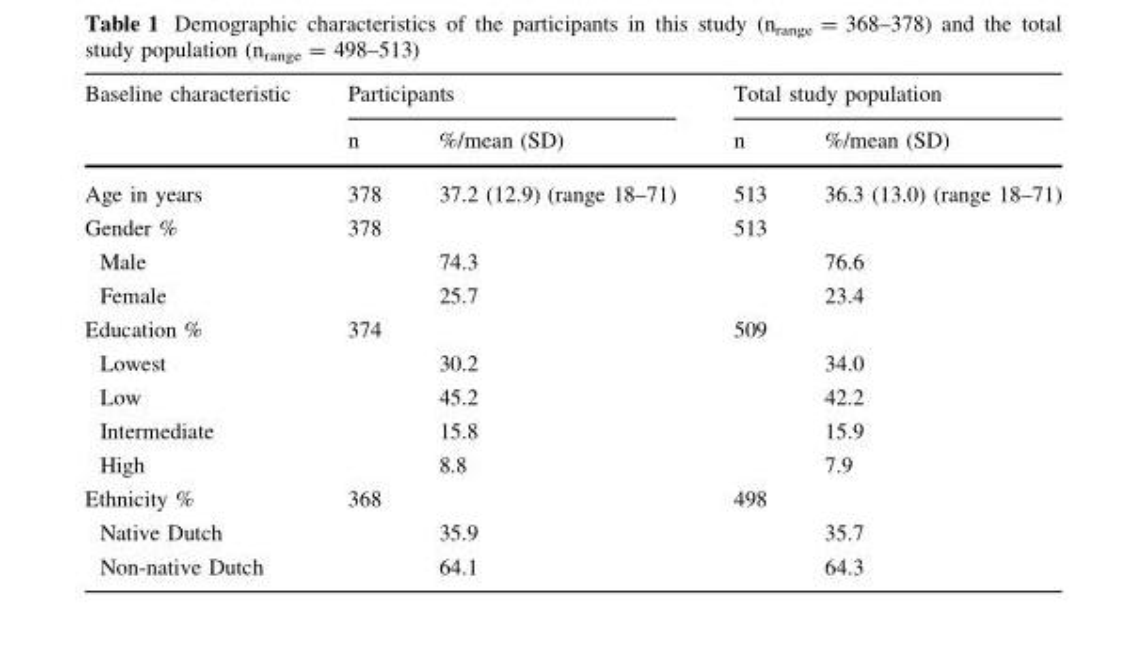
<table><thead><tr><td rowspan="2">Baseline characteristic</td><td colspan="2">Participants</td><td colspan="2">Total study population</td></tr><tr><td>n</td><td>%/mean (SD)</td><td>n</td><td>%/mean (SD)</td></tr></thead><tbody><tr><td>Age in years</td><td>378</td><td>37.2 (12.9) (range 18–71)</td><td>513</td><td>36.3 (13.0) (range 18–71)</td></tr><tr><td>Gender %</td><td>378</td><td></td><td>513</td><td></td></tr><tr><td>Male</td><td></td><td>74.3</td><td></td><td>76.6</td></tr><tr><td>Female</td><td></td><td>25.7</td><td></td><td>23.4</td></tr><tr><td>Education %</td><td>374</td><td></td><td>509</td><td></td></tr><tr><td>Lowest</td><td></td><td>30.2</td><td></td><td>34.0</td></tr><tr><td>Low</td><td></td><td>45.2</td><td></td><td>42.2</td></tr><tr><td>Intermediate</td><td></td><td>15.8</td><td></td><td>15.9</td></tr><tr><td>High</td><td></td><td>8.8</td><td></td><td>7.9</td></tr><tr><td>Ethnicity %</td><td>368</td><td></td><td>498</td><td></td></tr><tr><td>Native Dutch</td><td></td><td>35.9</td><td></td><td>35.7</td></tr><tr><td>Non-native Dutch</td><td></td><td>64.1</td><td></td><td>64.3</td></tr></tbody></table>